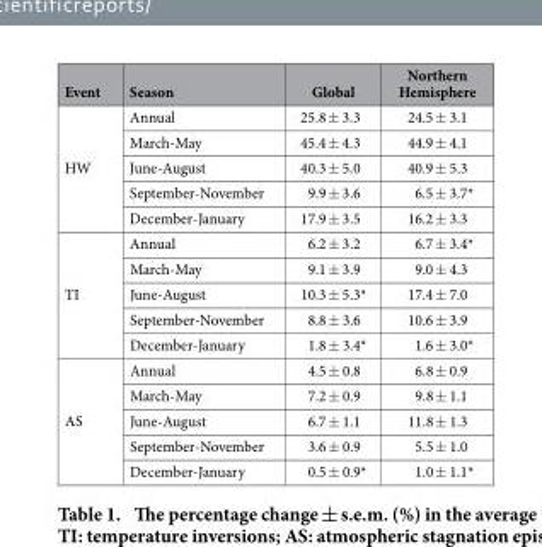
<table><thead><tr><td>Event</td><td>Season</td><td>Global</td><td>Northern Hemisphere</td></tr></thead><tbody><tr><td rowspan="5">HW</td><td>Annual</td><td>25.8 ± 3.3</td><td>24.5 ± 3.1</td></tr><tr><td>March-May</td><td>45.4 ± 4.3</td><td>44.9 ± 4.1</td></tr><tr><td>June-August</td><td>40.3 ± 5.0</td><td>40.9 ± 5.3</td></tr><tr><td>September-November</td><td>9.9 ± 3.6</td><td>6.5 ± 3.7*</td></tr><tr><td>December-January</td><td>17.9 ± 3.5</td><td>16.2 ± 3.3</td></tr><tr><td rowspan="5">TI</td><td>Annual</td><td>6.2 ± 3.2</td><td>6.7 ± 3.4*</td></tr><tr><td>March-May</td><td>9.1 ± 3.9</td><td>9.0 ± 4.3</td></tr><tr><td>June-August</td><td>10.3 ± 5.3*</td><td>17.4 ± 7.0</td></tr><tr><td>September-November</td><td>8.8 ± 3.6</td><td>10.6 ± 3.9</td></tr><tr><td>December-January</td><td>1.8 ± 3.4*</td><td>1.6 ± 3.0*</td></tr><tr><td rowspan="5">AS</td><td>Annual</td><td>4.5 ± 0.8</td><td>6.8 ± 0.9</td></tr><tr><td>March-May</td><td>7.2 ± 0.9</td><td>9.8 ± 1.1</td></tr><tr><td>June-August</td><td>6.7 ± 1.1</td><td>11.8 ± 1.3</td></tr><tr><td>September-November</td><td>3.6 ± 0.9</td><td>5.5 ± 1.0</td></tr><tr><td>December-January</td><td>0.5 ± 0.9*</td><td>1.0 ± 1.1*</td></tr></tbody></table>